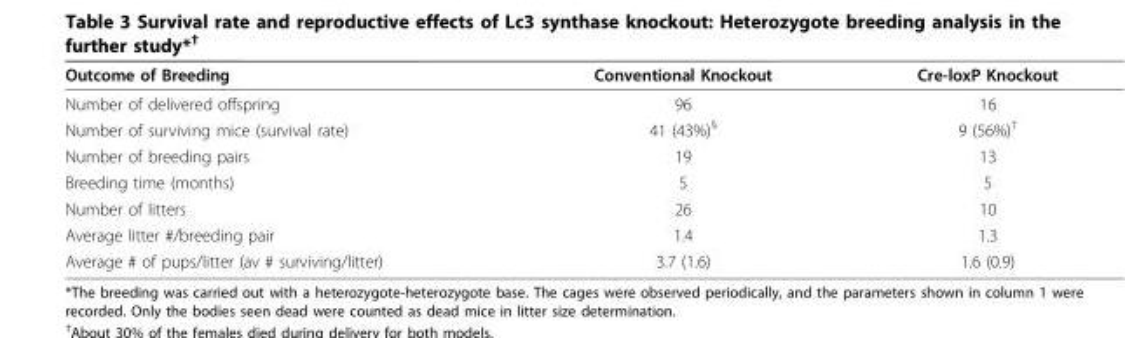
<table><thead><tr><td>Outcome of Breeding</td><td>Conventional Knockout</td><td>Cre-loxP Knockout</td></tr></thead><tbody><tr><td>Number of delivered offspring</td><td>96</td><td>16</td></tr><tr><td>Number of surviving mice (survival rate)</td><td>41 (43%)<sup>§</sup></td><td>9 (56%)<sup>†</sup></td></tr><tr><td>Number of breeding pairs</td><td>19</td><td>13</td></tr><tr><td>Breeding time (months)</td><td>5</td><td>5</td></tr><tr><td>Number of litters</td><td>26</td><td>10</td></tr><tr><td>Average litter #/breeding pair</td><td>1.4</td><td>1.3</td></tr><tr><td>Average # of pups/litter (av # surviving/litter)</td><td>3.7 (1.6)</td><td>1.6 (0.9)</td></tr></tbody></table>